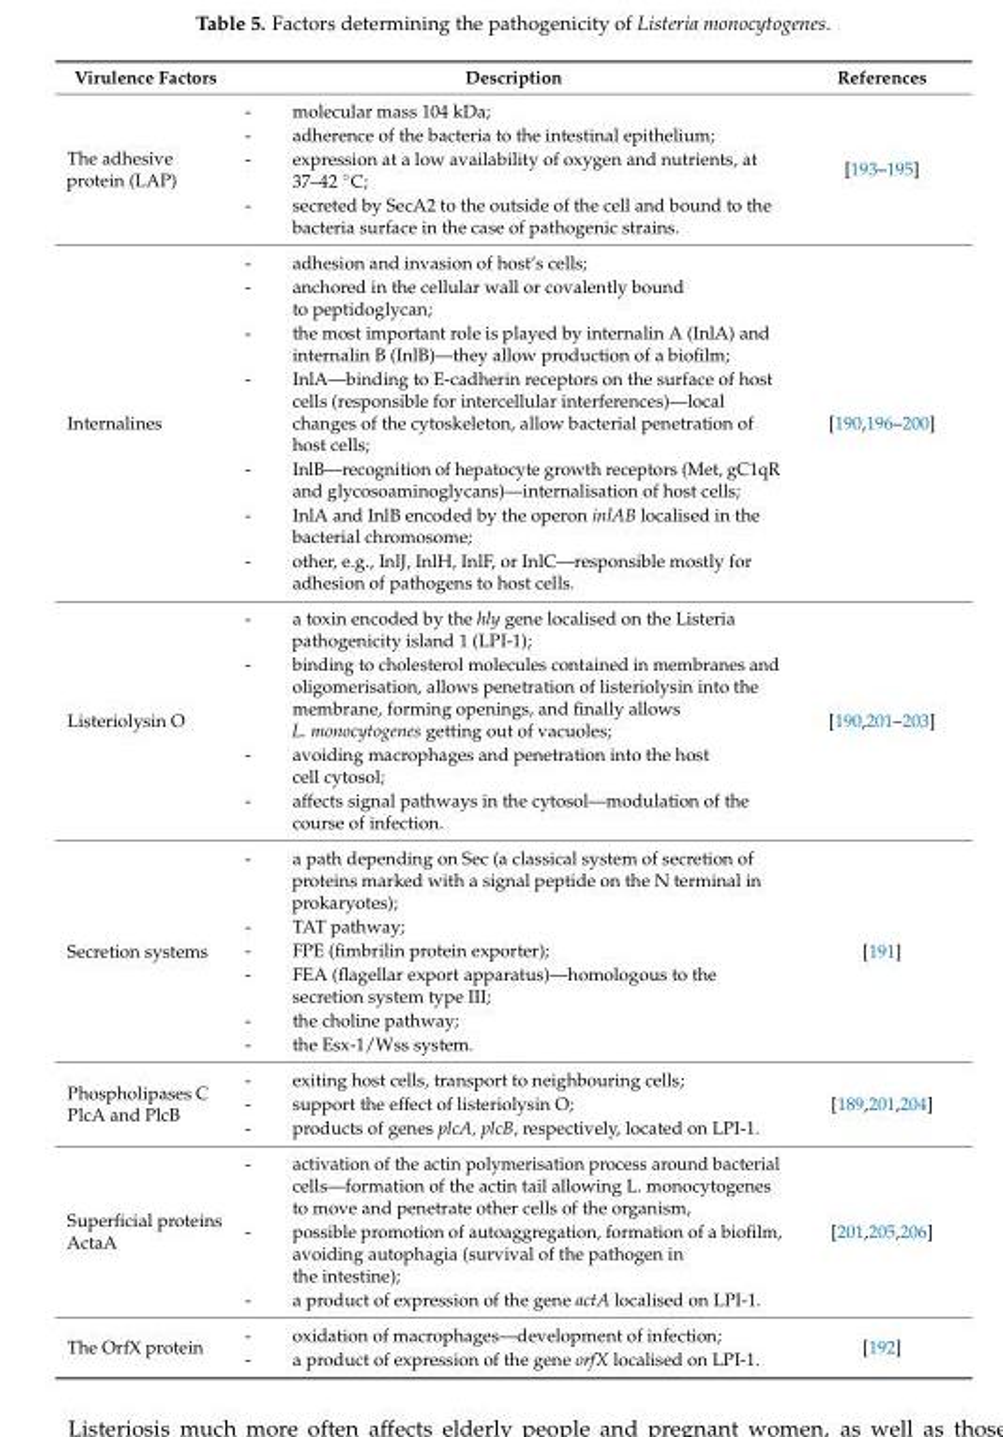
<table><thead><tr><td>Virulence Factors</td><td>Description</td><td>References</td></tr></thead><tbody><tr><td>The adhesive protein (LAP)</td><td>- molecular mass 104 kDa; - adherence of the bacteria to the intestinal epithelium; - expression at a low availability of oxygen and nutrients, at 37–42 ◦C; - secreted by SecA2 to the outside of the cell and bound to the bacteria surface in the case of pathogenic strains.</td><td>[193–195]</td></tr><tr><td>Internalines</td><td>- adhesion and invasion of host’s cells; - anchored in the cellular wall or covalently bound to peptidoglycan; - the most important role is played by internalin A (InlA) and internalin B (InlB)—they allow production of a biofilm; - InlA—binding to E-cadherin receptors on the surface of host cells (responsible for intercellular interferences)—local changes of the cytoskeleton, allow bacterial penetration of host cells; - InlB—recognition of hepatocyte growth receptors (Met, gC1qR and glycosoaminoglycans)—internalisation of host cells; - InlA and InlB encoded by the operon inlAB localised in the bacterial chromosome; - other, e.g., InlJ, InlH, InlF, or InlC—responsible mostly for adhesion of pathogens to host cells.</td><td>[190,196–200]</td></tr><tr><td>Listeriolysin O</td><td>- a toxin encoded by the hly gene localised on the Listeria pathogenicity island 1 (LPI-1); - binding to cholesterol molecules contained in membranes and oligomerisation, allows penetration of listeriolysin into the membrane, forming openings, and finally allows L. monocytogenes getting out of vacuoles; - avoiding macrophages and penetration into the host cell cytosol; - affects signal pathways in the cytosol—modulation of the course of infection.</td><td>[190,201–203]</td></tr><tr><td>Secretion systems</td><td>- a path depending on Sec (a classical system of secretion of proteins marked with a signal peptide on the N terminal in prokaryotes); - TAT pathway; - FPE (fimbrilin protein exporter); - FEA (flagellar export apparatus)—homologous to the secretion system type III; - the choline pathway; - the Esx-1/Wss system.</td><td>[191]</td></tr><tr><td>Phospholipases C PlcA and PlcB</td><td>- exiting host cells, transport to neighbouring cells; - support the effect of listeriolysin O; - products of genes plcA, plcB, respectively, located on LPI-1.</td><td>[189,201,204]</td></tr><tr><td>Superficial proteins ActaA</td><td>- activation of the actin polymerisation process around bacterial cells—formation of the actin tail allowing L. monocytogenes to move and penetrate other cells of the organism, - possible promotion of autoaggregation, formation of a biofilm, avoiding autophagia (survival of the pathogen in the intestine); - a product of expression of the gene actA localised on LPI-1.</td><td>[201,205,206]</td></tr><tr><td>The OrfX protein</td><td>- oxidation of macrophages—development of infection; - a product of expression of the gene orfX localised on LPI-1.</td><td>[192]</td></tr></tbody></table>